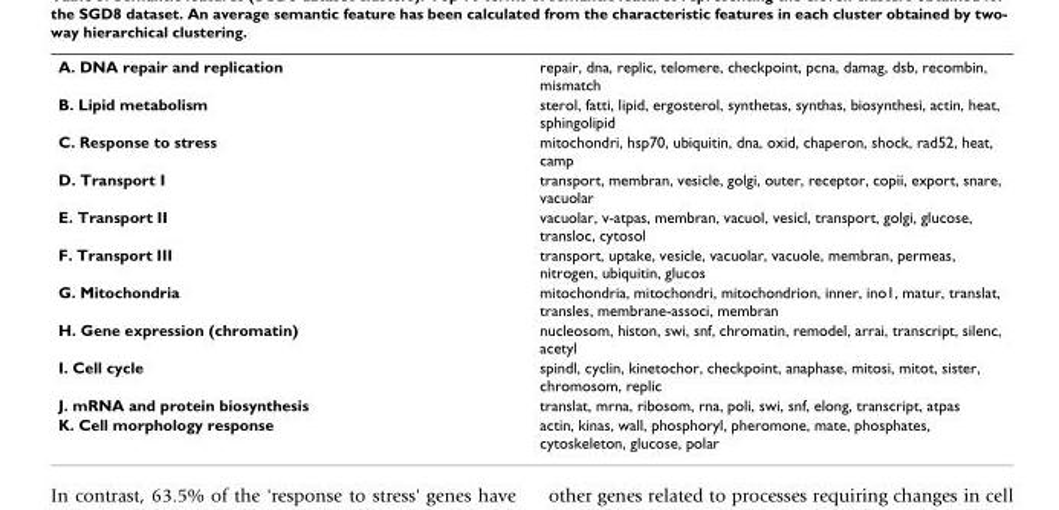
<table><tbody><tr><td>A. DNA repair and replication</td><td>repair, dna, replic, telomere, checkpoint, pcna, damag, dsb, recombin, mismatch</td></tr><tr><td>B. Lipid metabolism</td><td>sterol, fatti, lipid, ergosterol, synthetas, synthas, biosynthesi, actin, heat, sphingolipid</td></tr><tr><td>C. Response to stress</td><td>mitochondri, hsp70, ubiquitin, dna, oxid, chaperon, shock, rad52, heat, camp</td></tr><tr><td>D. Transport I</td><td>transport, membran, vesicle, golgi, outer, receptor, copii, export, snare, vacuolar</td></tr><tr><td>E. Transport II</td><td>vacuolar, v-atpas, membran, vacuol, vesicl, transport, golgi, glucose, transloc, cytosol</td></tr><tr><td>F. Transport III</td><td>transport, uptake, vesicle, vacuolar, vacuole, membran, permeas, nitrogen, ubiquitin, glucos</td></tr><tr><td>G. Mitochondria</td><td>mitochondria, mitochondri, mitochondrion, inner, ino1, matur, translat, transles, membrane-associ, membran</td></tr><tr><td>H. Gene expression (chromatin)</td><td>nucleosom, histon, swi, snf, chromatin, remodel, arrai, transcript, silenc, acetyl</td></tr><tr><td>I. Cell cycle</td><td>spindl, cyclin, kinetochor, checkpoint, anaphase, mitosi, mitot, sister, chromosom, replic</td></tr><tr><td>J. mRNA and protein biosynthesis</td><td>translat, mrna, ribosom, rna, poli, swi, snf, elong, transcript, atpas</td></tr><tr><td>K. Cell morphology response</td><td>actin, kinas, wall, phosphoryl, pheromone, mate, phosphates, cytoskeleton, glucose, polar</td></tr></tbody></table>